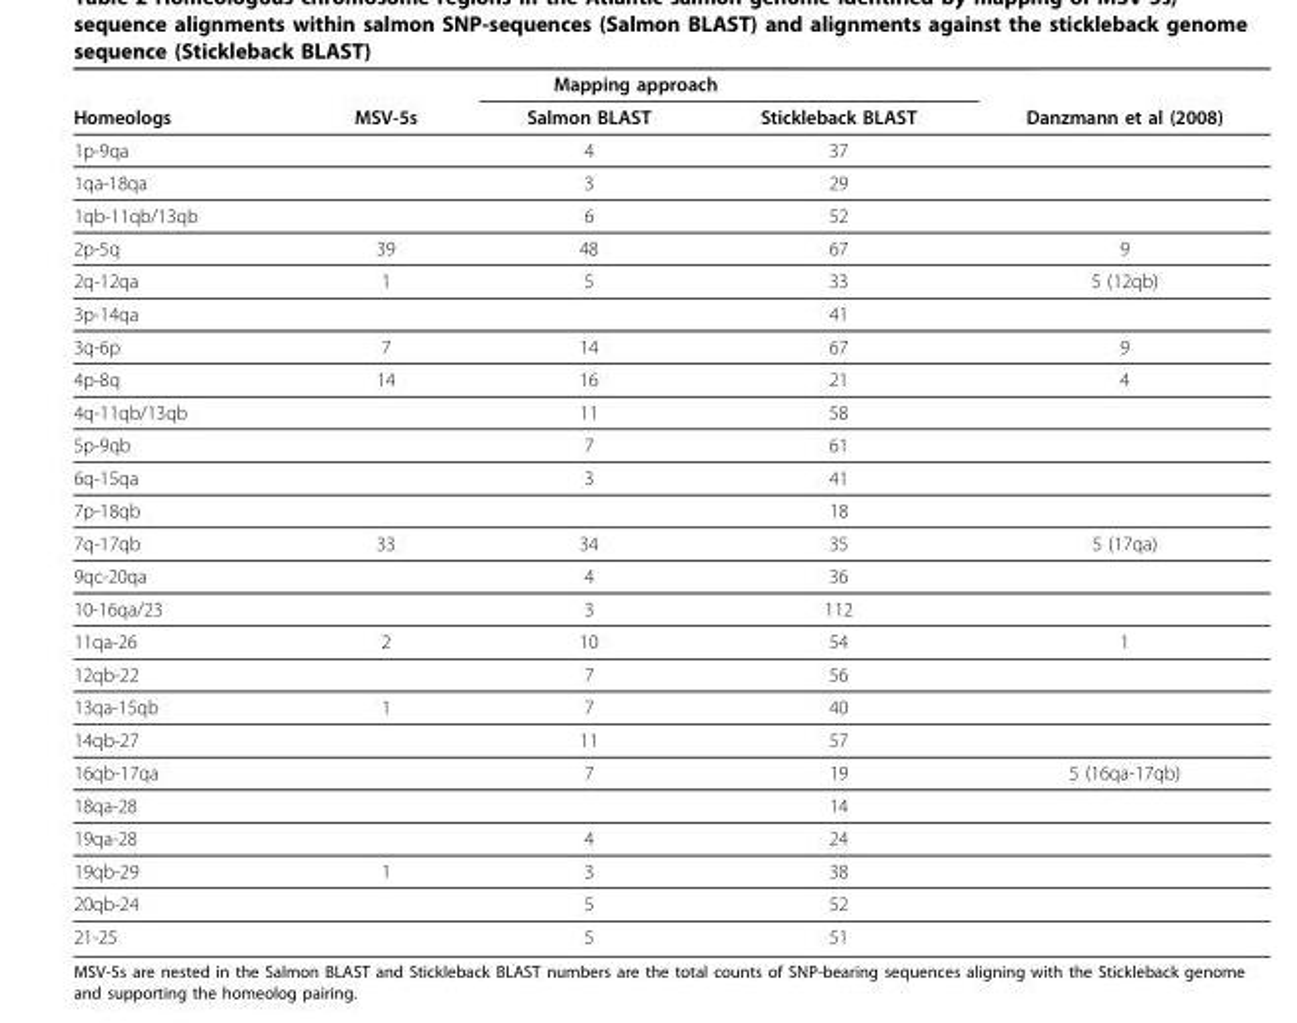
<table><thead><tr><td rowspan="2">Homeologs</td><td colspan="3">Mapping approach</td><td rowspan="2">Danzmann et al (2008)</td></tr><tr><td>MSV-5s</td><td>Salmon BLAST</td><td>Stickleback BLAST</td></tr></thead><tbody><tr><td>1p-9qa</td><td></td><td>4</td><td>37</td><td></td></tr><tr><td>1qa-18qa</td><td></td><td>3</td><td>29</td><td></td></tr><tr><td>1qb-11qb/13qb</td><td></td><td>6</td><td>52</td><td></td></tr><tr><td>2p-5q</td><td>39</td><td>48</td><td>67</td><td>9</td></tr><tr><td>2q-12qa</td><td>1</td><td>5</td><td>33</td><td>5 (12qb)</td></tr><tr><td>3p-14qa</td><td></td><td></td><td>41</td><td></td></tr><tr><td>3q-6p</td><td>7</td><td>14</td><td>67</td><td>9</td></tr><tr><td>4p-8q</td><td>14</td><td>16</td><td>21</td><td>4</td></tr><tr><td>4q-11qb/13qb</td><td></td><td>11</td><td>58</td><td></td></tr><tr><td>5p-9qb</td><td></td><td>7</td><td>61</td><td></td></tr><tr><td>6q-15qa</td><td></td><td>3</td><td>41</td><td></td></tr><tr><td>7p-18qb</td><td></td><td></td><td>18</td><td></td></tr><tr><td>7q-17qb</td><td>33</td><td>34</td><td>35</td><td>5 (17qa)</td></tr><tr><td>9qc-20qa</td><td></td><td>4</td><td>36</td><td></td></tr><tr><td>10-16qa/23</td><td></td><td>3</td><td>112</td><td></td></tr><tr><td>11qa-26</td><td>2</td><td>10</td><td>54</td><td>1</td></tr><tr><td>12qb-22</td><td></td><td>7</td><td>56</td><td></td></tr><tr><td>13qa-15qb</td><td>1</td><td>7</td><td>40</td><td></td></tr><tr><td>14qb-27</td><td></td><td>11</td><td>57</td><td></td></tr><tr><td>16qb-17qa</td><td></td><td>7</td><td>19</td><td>5 (16qa-17qb)</td></tr><tr><td>18qa-28</td><td></td><td></td><td>14</td><td></td></tr><tr><td>19qa-28</td><td></td><td>4</td><td>24</td><td></td></tr><tr><td>19qb-29</td><td>1</td><td>3</td><td>38</td><td></td></tr><tr><td>20qb-24</td><td></td><td>5</td><td>52</td><td></td></tr><tr><td>21-25</td><td></td><td>5</td><td>51</td><td></td></tr></tbody></table>